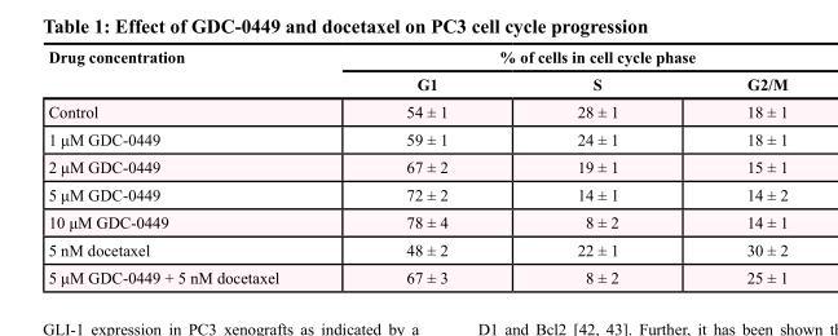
<table><thead><tr><td rowspan="2">Drug concentration</td><td colspan="3">% of cells in cell cycle phase</td></tr><tr><td>G1</td><td>S</td><td>G2/M</td></tr></thead><tbody><tr><td>Control</td><td>54 ± 1</td><td>28 ± 1</td><td>18 ± 1</td></tr><tr><td>1 μM GDC-0449</td><td>59 ± 1</td><td>24 ± 1</td><td>18 ± 1</td></tr><tr><td>2 μM GDC-0449</td><td>67 ± 2</td><td>19 ± 1</td><td>15 ± 1</td></tr><tr><td>5 μM GDC-0449</td><td>72 ± 2</td><td>14 ± 1</td><td>14 ± 2</td></tr><tr><td>10 μM GDC-0449</td><td>78 ± 4</td><td>8 ± 2</td><td>14 ± 1</td></tr><tr><td>5 nM docetaxel</td><td>48 ± 2</td><td>22 ± 1</td><td>30 ± 2</td></tr><tr><td>5 μM GDC-0449 + 5 nM docetaxel</td><td>67 ± 3</td><td>8 ± 2</td><td>25 ± 1</td></tr></tbody></table>